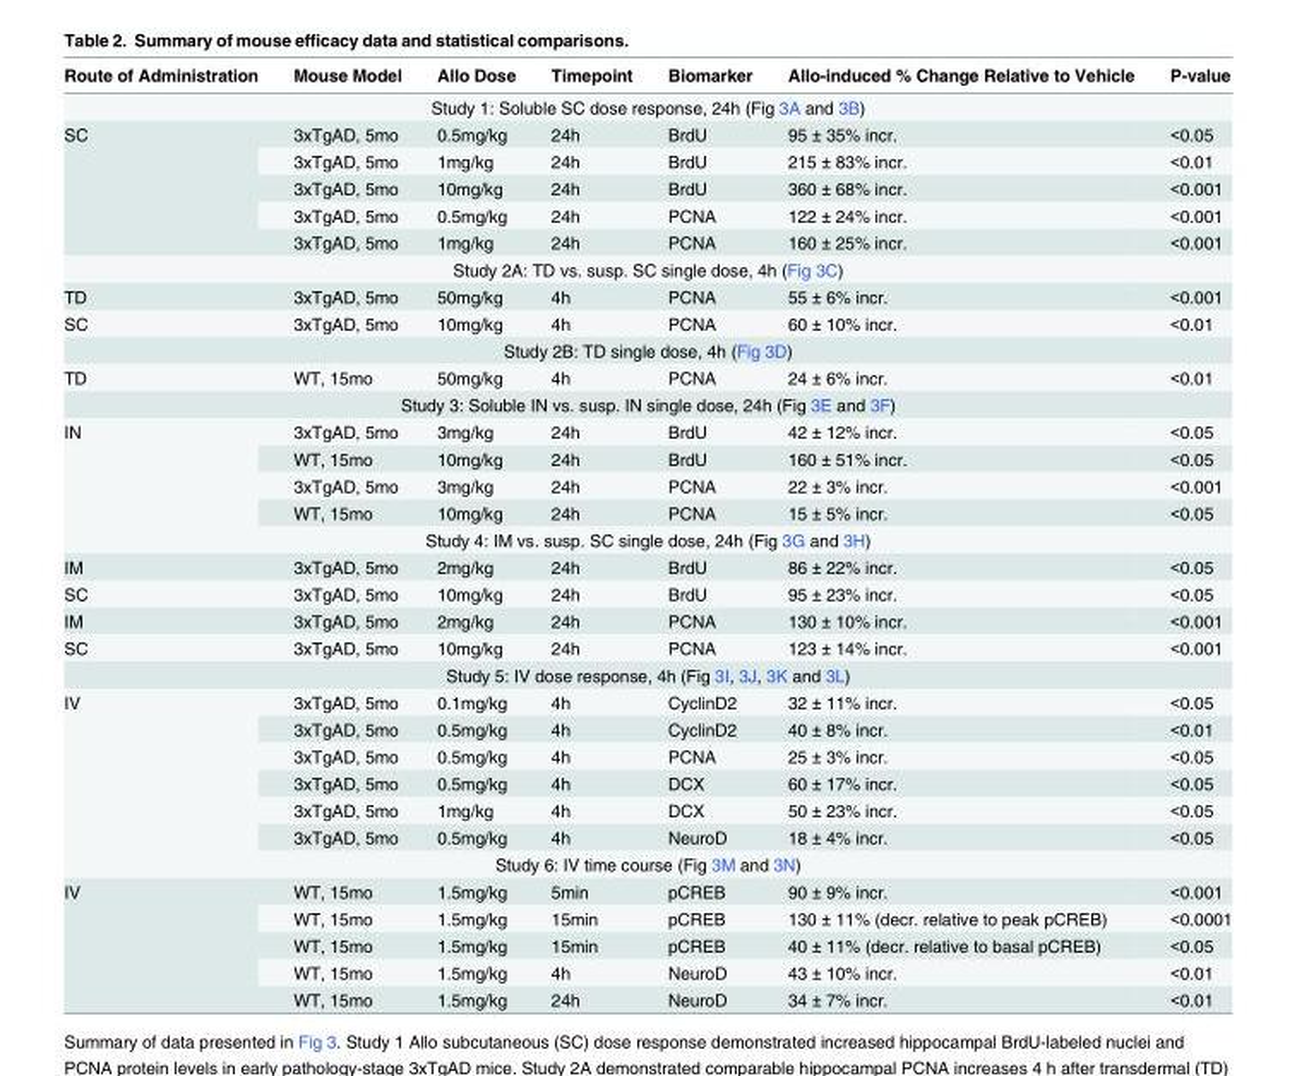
<table><thead><tr><td>Route of Administration</td><td>Mouse Model</td><td>Allo Dose</td><td>Timepoint</td><td>Biomarker</td><td>Allo-induced % Change Relative to Vehicle</td><td>P-value</td></tr></thead><tbody><tr><td colspan="7">Study 1: Soluble SC dose response, 24h (Fig 3A and 3B)</td></tr><tr><td rowspan="5">SC</td><td>3xTgAD, 5mo</td><td>0.5mg/kg</td><td>24h</td><td>BrdU</td><td>95 ± 35% incr.</td><td>&lt;0.05</td></tr><tr><td>3xTgAD, 5mo</td><td>1mg/kg</td><td>24h</td><td>BrdU</td><td>215 ± 83% incr.</td><td>&lt;0.01</td></tr><tr><td>3xTgAD, 5mo</td><td>10mg/kg</td><td>24h</td><td>BrdU</td><td>360 ± 68% incr.</td><td>&lt;0.001</td></tr><tr><td>3xTgAD, 5mo</td><td>0.5mg/kg</td><td>24h</td><td>PCNA</td><td>122 ± 24% incr.</td><td>&lt;0.001</td></tr><tr><td>3xTgAD, 5mo</td><td>1mg/kg</td><td>24h</td><td>PCNA</td><td>160 ± 25% incr.</td><td>&lt;0.001</td></tr><tr><td colspan="7">Study 2A: TD vs. susp. SC single dose, 4h (Fig 3C)</td></tr><tr><td>TD</td><td>3xTgAD, 5mo</td><td>50mg/kg</td><td>4h</td><td>PCNA</td><td>55 ± 6% incr.</td><td>&lt;0.001</td></tr><tr><td>SC</td><td>3xTgAD, 5mo</td><td>10mg/kg</td><td>4h</td><td>PCNA</td><td>60 ± 10% incr.</td><td>&lt;0.01</td></tr><tr><td colspan="7">Study 2B: TD single dose, 4h (Fig 3D)</td></tr><tr><td>TD</td><td>WT, 15mo</td><td>50mg/kg</td><td>4h</td><td>PCNA</td><td>24 ± 6% incr.</td><td>&lt;0.01</td></tr><tr><td colspan="7">Study 3: Soluble IN vs. susp. IN single dose, 24h (Fig 3E and 3F)</td></tr><tr><td rowspan="4">IN</td><td>3xTgAD, 5mo</td><td>3mg/kg</td><td>24h</td><td>BrdU</td><td>42 ± 12% incr.</td><td>&lt;0.05</td></tr><tr><td>WT, 15mo</td><td>10mg/kg</td><td>24h</td><td>BrdU</td><td>160 ± 51% incr.</td><td>&lt;0.05</td></tr><tr><td>3xTgAD, 5mo</td><td>3mg/kg</td><td>24h</td><td>PCNA</td><td>22 ± 3% incr.</td><td>&lt;0.001</td></tr><tr><td>WT, 15mo</td><td>10mg/kg</td><td>24h</td><td>PCNA</td><td>15 ± 5% incr.</td><td>&lt;0.05</td></tr><tr><td colspan="7">Study 4: IM vs. susp. SC single dose, 24h (Fig 3G and 3H)</td></tr><tr><td>IM</td><td>3xTgAD, 5mo</td><td>2mg/kg</td><td>24h</td><td>BrdU</td><td>86 ± 22% incr.</td><td>&lt;0.05</td></tr><tr><td>SC</td><td>3xTgAD, 5mo</td><td>10mg/kg</td><td>24h</td><td>BrdU</td><td>95 ± 23% incr.</td><td>&lt;0.05</td></tr><tr><td>IM</td><td>3xTgAD, 5mo</td><td>2mg/kg</td><td>24h</td><td>PCNA</td><td>130 ± 10% incr.</td><td>&lt;0.001</td></tr><tr><td>SC</td><td>3xTgAD, 5mo</td><td>10mg/kg</td><td>24h</td><td>PCNA</td><td>123 ± 14% incr.</td><td>&lt;0.001</td></tr><tr><td colspan="7">Study 5: IV dose response, 4h (Fig 3I, 3J, 3K and 3L)</td></tr><tr><td rowspan="6">IV</td><td>3xTgAD, 5mo</td><td>0.1mg/kg</td><td>4h</td><td>CyclinD2</td><td>32 ± 11% incr.</td><td>&lt;0.05</td></tr><tr><td>3xTgAD, 5mo</td><td>0.5mg/kg</td><td>4h</td><td>CyclinD2</td><td>40 ± 8% incr.</td><td>&lt;0.01</td></tr><tr><td>3xTgAD, 5mo</td><td>0.5mg/kg</td><td>4h</td><td>PCNA</td><td>25 ± 3% incr.</td><td>&lt;0.05</td></tr><tr><td>3xTgAD, 5mo</td><td>0.5mg/kg</td><td>4h</td><td>DCX</td><td>60 ± 17% incr.</td><td>&lt;0.05</td></tr><tr><td>3xTgAD, 5mo</td><td>1mg/kg</td><td>4h</td><td>DCX</td><td>50 ± 23% incr.</td><td>&lt;0.05</td></tr><tr><td>3xTgAD, 5mo</td><td>0.5mg/kg</td><td>4h</td><td>NeuroD</td><td>18 ± 4% incr.</td><td>&lt;0.05</td></tr><tr><td colspan="7">Study 6: IV time course (Fig 3M and 3N)</td></tr><tr><td rowspan="5">IV</td><td>WT, 15mo</td><td>1.5mg/kg</td><td>5min</td><td>pCREB</td><td>90 ± 9% incr.</td><td>&lt;0.001</td></tr><tr><td>WT, 15mo</td><td>1.5mg/kg</td><td>15min</td><td>pCREB</td><td>130 ± 11% (decr. relative to peak pCREB)</td><td>&lt;0.0001</td></tr><tr><td>WT, 15mo</td><td>1.5mg/kg</td><td>15min</td><td>pCREB</td><td>40 ± 11% (decr. relative to basal pCREB)</td><td>&lt;0.05</td></tr><tr><td>WT, 15mo</td><td>1.5mg/kg</td><td>4h</td><td>NeuroD</td><td>43 ± 10% incr.</td><td>&lt;0.01</td></tr><tr><td>WT, 15mo</td><td>1.5mg/kg</td><td>24h</td><td>NeuroD</td><td>34 ± 7% incr.</td><td>&lt;0.01</td></tr></tbody></table>